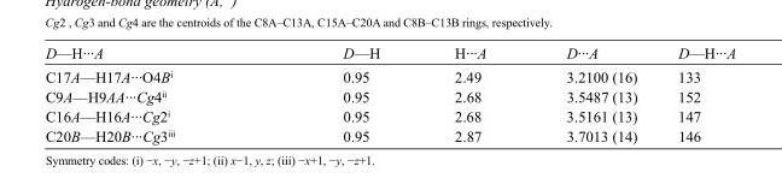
<table><tbody><tr><td>D—H···A</td><td>D—H</td><td>H···A</td><td>D···A</td><td>D—H···A</td></tr><tr><td>C17A—H17A···O4B<sup>i</sup></td><td>0.95</td><td>2.49</td><td>3.2100 (16)</td><td>133</td></tr><tr><td>C9A—H9AA···Cg4<sup>ii</sup></td><td>0.95</td><td>2.68</td><td>3.5487 (13)</td><td>152</td></tr><tr><td>C16A—H16A···Cg2<sup>i</sup></td><td>0.95</td><td>2.68</td><td>3.5161 (13)</td><td>147</td></tr><tr><td>C20B—H20B···Cg3<sup>iii</sup></td><td>0.95</td><td>2.87</td><td>3.7013 (14)</td><td>146</td></tr></tbody></table>